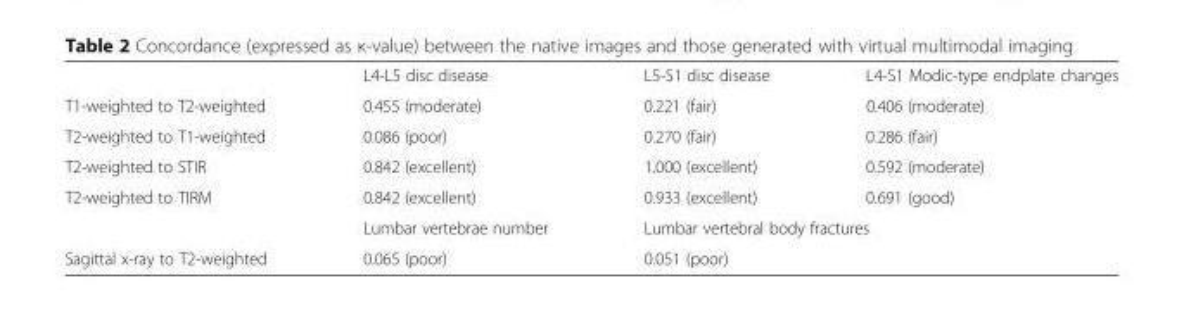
<table><thead><tr><td></td><td>L4-L5 disc disease</td><td>L5-S1 disc disease</td><td>L4-S1 Modic-type endplate changes</td></tr></thead><tbody><tr><td>T1-weighted to T2-weighted</td><td>0.455 (moderate)</td><td>0.221 (fair)</td><td>0.406 (moderate)</td></tr><tr><td>T2-weighted to T1-weighted</td><td>0.086 (poor)</td><td>0.270 (fair)</td><td>0.286 (fair)</td></tr><tr><td>T2-weighted to STIR</td><td>0.842 (excellent)</td><td>1.000 (excellent)</td><td>0.592 (moderate)</td></tr><tr><td rowspan="2">T2-weighted to TIRM</td><td>0.842 (excellent)</td><td>0.933 (excellent)</td><td>0.691 (good)</td></tr><tr><td>Lumbar vertebrae number</td><td colspan="2">Lumbar vertebral body fractures</td></tr><tr><td>Sagittal x-ray to T2-weighted</td><td>0.065 (poor)</td><td colspan="2">0.051 (poor)</td></tr></tbody></table>